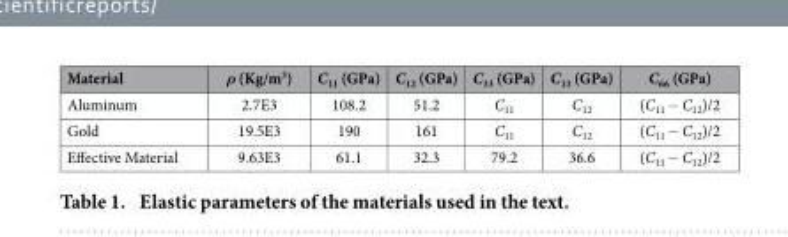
<table><thead><tr><td>Material</td><td>ρ (Kg/m<sup>3</sup>)</td><td>C<sub>11</sub> (GPa)</td><td>C<sub>12</sub> (GPa)</td><td>C<sub>33</sub> (GPa)</td><td>C<sub>13</sub> (GPa)</td><td>C<sub>66</sub> (GPa)</td></tr></thead><tbody><tr><td>Aluminum</td><td>2.7E3</td><td>108.2</td><td>51.2</td><td>C<sub>11</sub></td><td>C<sub>12</sub></td><td>(C<sub>11</sub> − C<sub>12</sub>)/2</td></tr><tr><td>Gold</td><td>19.5E3</td><td>190</td><td>161</td><td>C<sub>11</sub></td><td>C<sub>12</sub></td><td>(C<sub>11</sub> − C<sub>12</sub>)/2</td></tr><tr><td>Effective Material</td><td>9.63E3</td><td>61.1</td><td>32.3</td><td>79.2</td><td>36.6</td><td>(C<sub>11</sub> − C<sub>12</sub>)/2</td></tr></tbody></table>